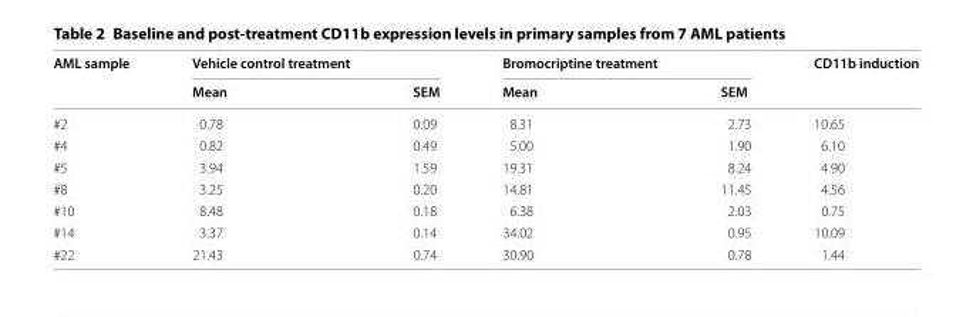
<table><thead><tr><td rowspan="2">AML sample</td><td colspan="2">Vehicle control treatment</td><td colspan="2">Bromocriptine treatment</td><td rowspan="2">CD11b induction</td></tr><tr><td>Mean</td><td>SEM</td><td>Mean</td><td>SEM</td></tr></thead><tbody><tr><td>#2</td><td>0.78</td><td>0.09</td><td>8.31</td><td>2.73</td><td>10.65</td></tr><tr><td>#4</td><td>0.82</td><td>0.49</td><td>5.00</td><td>1.90</td><td>6.10</td></tr><tr><td>#5</td><td>3.94</td><td>1.59</td><td>19.31</td><td>8.24</td><td>4.90</td></tr><tr><td>#8</td><td>3.25</td><td>0.20</td><td>14.81</td><td>11.45</td><td>4.56</td></tr><tr><td>#10</td><td>8.48</td><td>0.18</td><td>6.38</td><td>2.03</td><td>0.75</td></tr><tr><td>#14</td><td>3.37</td><td>0.14</td><td>34.02</td><td>0.95</td><td>10.09</td></tr><tr><td>#22</td><td>21.43</td><td>0.74</td><td>30.90</td><td>0.78</td><td>1.44</td></tr></tbody></table>